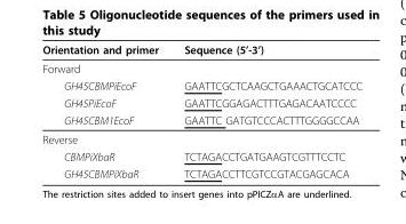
<table><thead><tr><td>Orientation and primer</td><td>Sequence (5’-3’)</td></tr></thead><tbody><tr><td colspan="2">Forward</td></tr><tr><td>GH45CBMPiEcoF</td><td>GAATTCGCTCAAGCTGAAACTGCATCCC</td></tr><tr><td>GH45PiEcoF</td><td>GAATTCGGAGACTTTGAGACAATCCCC</td></tr><tr><td>GH45CBM1EcoF</td><td>GAATTC GATGTCCCACTTTGGGGCCAA</td></tr><tr><td colspan="2">Reverse</td></tr><tr><td>CBMPiXbaR</td><td>TCTAGACCTGATGAAGTCGTTTCCTC</td></tr><tr><td>GH45CBMPiXbaR</td><td>TCTAGACCTTCGTCCGTACGAGCACA</td></tr></tbody></table>